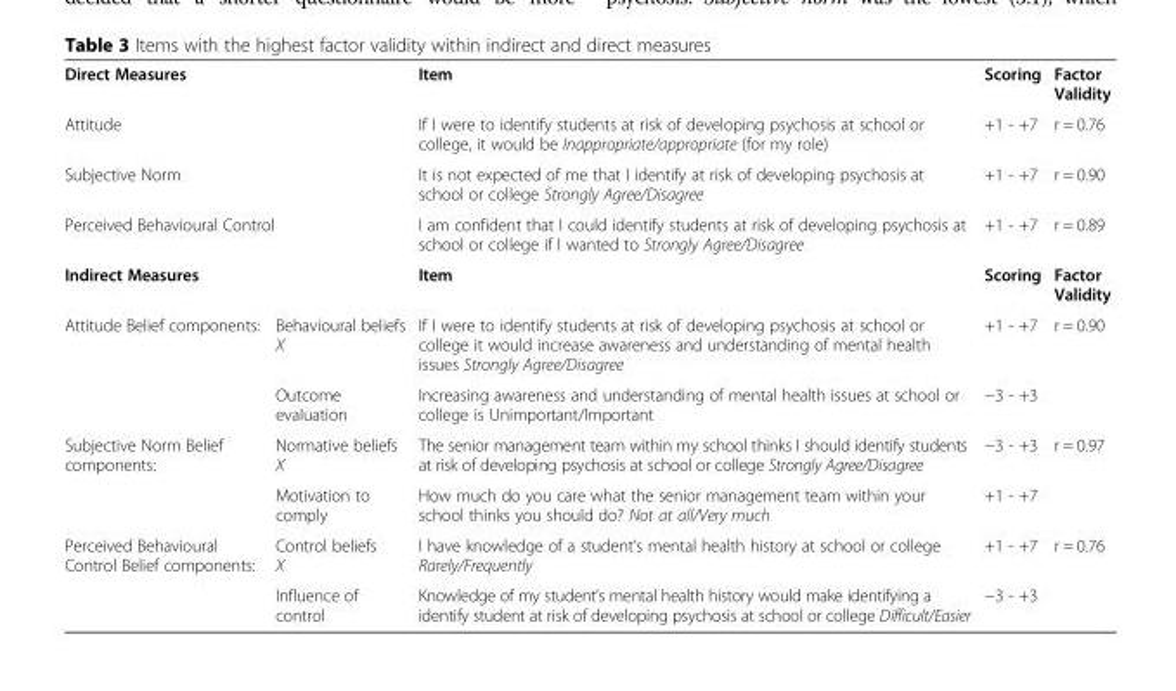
<table><tbody><tr><td colspan="2">Direct Measures</td><td>Item</td><td>Scoring</td><td>Factor Validity</td></tr><tr><td colspan="2">Attitude</td><td>If I were to identify students at risk of developing psychosis at school or college, it would be Inappropriate/appropriate (for my role)</td><td>+1 - +7</td><td>r = 0.76</td></tr><tr><td colspan="2">Subjective Norm</td><td>It is not expected of me that I identify at risk of developing psychosis at school or college Strongly Agree/Disagree</td><td>+1 - +7</td><td>r = 0.90</td></tr><tr><td colspan="2">Perceived Behavioural Control</td><td>I am confident that I could identify students at risk of developing psychosis at school or college if I wanted to Strongly Agree/Disagree</td><td>+1 - +7</td><td>r = 0.89</td></tr><tr><td colspan="2">Indirect Measures</td><td>Item</td><td>Scoring</td><td>Factor Validity</td></tr><tr><td rowspan="2">Attitude Belief components:</td><td>Behavioural beliefs X</td><td>If I were to identify students at risk of developing psychosis at school or college it would increase awareness and understanding of mental health issues Strongly Agree/Disagree</td><td>+1 - +7</td><td rowspan="2">r = 0.90</td></tr><tr><td>Outcome evaluation</td><td>Increasing awareness and understanding of mental health issues at school or college is Unimportant/Important</td><td>−3 - +3</td></tr><tr><td rowspan="2">Subjective Norm Belief components:</td><td>Normative beliefs X</td><td>The senior management team within my school thinks I should identify students at risk of developing psychosis at school or college Strongly Agree/Disagree</td><td>−3 - +3</td><td rowspan="2">r = 0.97</td></tr><tr><td>Motivation to comply</td><td>How much do you care what the senior management team within your school thinks you should do? Not at all/Very much</td><td>+1 - +7</td></tr><tr><td rowspan="2">Perceived Behavioural Control Belief components:</td><td>Control beliefs X</td><td>I have knowledge of a student’s mental health history at school or college Rarely/Frequently</td><td>+1 - +7</td><td rowspan="2">r = 0.76</td></tr><tr><td>Influence of control</td><td>Knowledge of my student’s mental health history would make identifying a identify student at risk of developing psychosis at school or college Difficult/Easier</td><td>−3 - +3</td></tr></tbody></table>